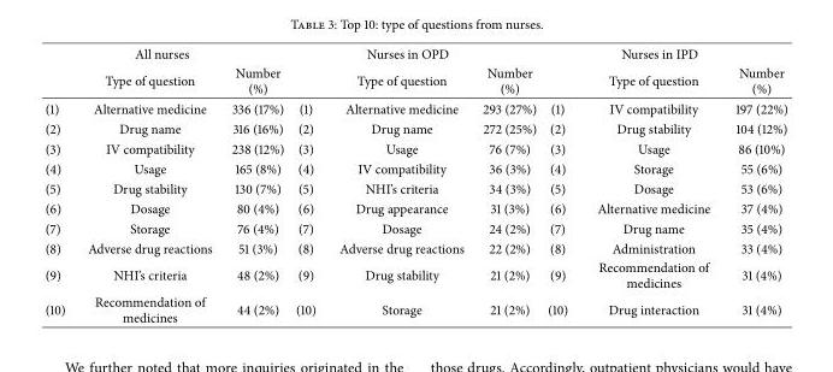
<table><thead><tr><td colspan="3">All nurses</td><td colspan="3">Nurses in OPD</td><td colspan="3">Nurses in IPD</td></tr><tr><td></td><td>Type of question</td><td>Number (%)</td><td></td><td>Type of question</td><td>Number (%)</td><td></td><td>Type of question</td><td>Number (%)</td></tr></thead><tbody><tr><td>(1)</td><td>Alternative medicine</td><td>336 (17%)</td><td>(1)</td><td>Alternative medicine</td><td>293 (27%)</td><td>(1)</td><td>IV compatibility</td><td>197 (22%)</td></tr><tr><td>(2)</td><td>Drug name</td><td>316 (16%)</td><td>(2)</td><td>Drug name</td><td>272 (25%)</td><td>(2)</td><td>Drug stability</td><td>104 (12%)</td></tr><tr><td>(3)</td><td>IV compatibility</td><td>238 (12%)</td><td>(3)</td><td>Usage</td><td>76 (7%)</td><td>(3)</td><td>Usage</td><td>86 (10%)</td></tr><tr><td>(4)</td><td>Usage</td><td>165 (8%)</td><td>(4)</td><td>IV compatibility</td><td>36 (3%)</td><td>(4)</td><td>Storage</td><td>55 (6%)</td></tr><tr><td>(5)</td><td>Drug stability</td><td>130 (7%)</td><td>(5)</td><td>NHI’s criteria</td><td>34 (3%)</td><td>(5)</td><td>Dosage</td><td>53 (6%)</td></tr><tr><td>(6)</td><td>Dosage</td><td>80 (4%)</td><td>(6)</td><td>Drug appearance</td><td>31 (3%)</td><td>(6)</td><td>Alternative medicine</td><td>37 (4%)</td></tr><tr><td>(7)</td><td>Storage</td><td>76 (4%)</td><td>(7)</td><td>Dosage</td><td>24 (2%)</td><td>(7)</td><td>Drug name</td><td>35 (4%)</td></tr><tr><td>(8)</td><td>Adverse drug reactions</td><td>51 (3%)</td><td>(8)</td><td>Adverse drug reactions</td><td>22 (2%)</td><td>(8)</td><td>Administration</td><td>33 (4%)</td></tr><tr><td>(9)</td><td>NHI’s criteria</td><td>48 (2%)</td><td>(9)</td><td>Drug stability</td><td>21 (2%)</td><td>(9)</td><td>Recommendation of medicines</td><td>31 (4%)</td></tr><tr><td>(10)</td><td>Recommendation of medicines</td><td>44 (2%)</td><td>(10)</td><td>Storage</td><td>21 (2%)</td><td>(10)</td><td>Drug interaction</td><td>31 (4%)</td></tr></tbody></table>